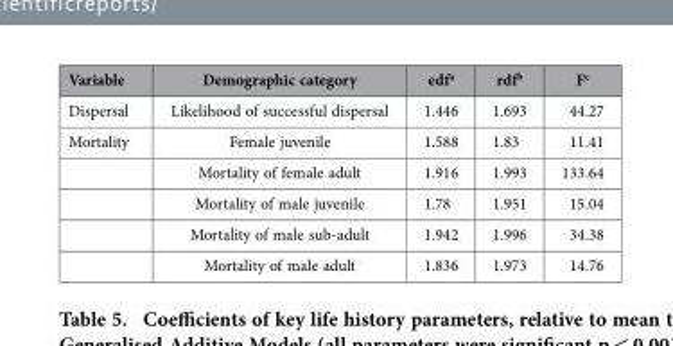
<table><thead><tr><td>Variable</td><td>Demographic category</td><td>edf<sup>a</sup></td><td>rdf<sup>b</sup></td><td>F<sup>c</sup></td></tr></thead><tbody><tr><td>Dispersal</td><td>Likelihood of successful dispersal</td><td>1.446</td><td>1.693</td><td>44.27</td></tr><tr><td rowspan="5">Mortality</td><td>Female juvenile</td><td>1.588</td><td>1.83</td><td>11.41</td></tr><tr><td>Mortality of female adult</td><td>1.916</td><td>1.993</td><td>133.64</td></tr><tr><td>Mortality of male juvenile</td><td>1.78</td><td>1.951</td><td>15.04</td></tr><tr><td>Mortality of male sub-adult</td><td>1.942</td><td>1.996</td><td>34.38</td></tr><tr><td>Mortality of male adult</td><td>1.836</td><td>1.973</td><td>14.76</td></tr></tbody></table>